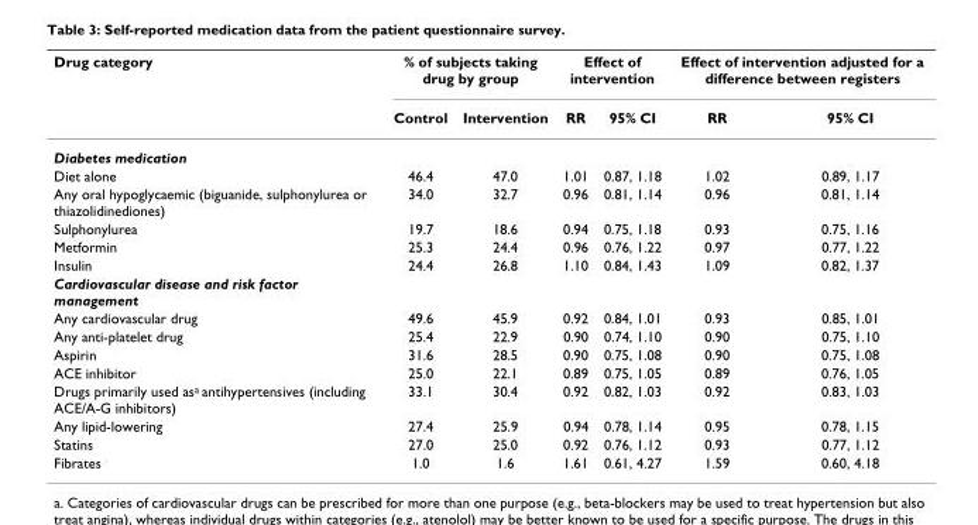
<table><thead><tr><td rowspan="2">Drug category</td><td colspan="2">% of subjects taking drug by group</td><td colspan="2">Effect of intervention</td><td colspan="2">Effect of intervention adjusted for a difference between registers</td></tr><tr><td>Control</td><td>Intervention</td><td>RR</td><td>95% CI</td><td>RR</td><td>95% CI</td></tr></thead><tbody><tr><td colspan="7">Diabetes medication</td></tr><tr><td>Diet alone</td><td>46.4</td><td>47.0</td><td>1.01</td><td>0.87, 1.18</td><td>1.02</td><td>0.89, 1.17</td></tr><tr><td>Any oral hypoglycaemic (biguanide, sulphonylurea or thiazolidinediones)</td><td>34.0</td><td>32.7</td><td>0.96</td><td>0.81, 1.14</td><td>0.96</td><td>0.81, 1.14</td></tr><tr><td>Sulphonylurea</td><td>19.7</td><td>18.6</td><td>0.94</td><td>0.75, 1.18</td><td>0.93</td><td>0.75, 1.16</td></tr><tr><td>Metformin</td><td>25.3</td><td>24.4</td><td>0.96</td><td>0.76, 1.22</td><td>0.97</td><td>0.77, 1.22</td></tr><tr><td>Insulin</td><td>24.4</td><td>26.8</td><td>1.10</td><td>0.84, 1.43</td><td>1.09</td><td>0.82, 1.37</td></tr><tr><td colspan="7">Cardiovascular disease and risk factor management</td></tr><tr><td>Any cardiovascular drug</td><td>49.6</td><td>45.9</td><td>0.92</td><td>0.84, 1.01</td><td>0.93</td><td>0.85, 1.01</td></tr><tr><td>Any anti-platelet drug</td><td>25.4</td><td>22.9</td><td>0.90</td><td>0.74, 1.10</td><td>0.90</td><td>0.75, 1.10</td></tr><tr><td>Aspirin</td><td>31.6</td><td>28.5</td><td>0.90</td><td>0.75, 1.08</td><td>0.90</td><td>0.75, 1.08</td></tr><tr><td>ACE inhibitor</td><td>25.0</td><td>22.1</td><td>0.89</td><td>0.75, 1.05</td><td>0.89</td><td>0.76, 1.05</td></tr><tr><td>Drugs primarily used as<sup>a</sup> antihypertensives (including ACE/A-G inhibitors)</td><td>33.1</td><td>30.4</td><td>0.92</td><td>0.82, 1.03</td><td>0.92</td><td>0.83, 1.03</td></tr><tr><td>Any lipid-lowering</td><td>27.4</td><td>25.9</td><td>0.94</td><td>0.78, 1.14</td><td>0.95</td><td>0.78, 1.15</td></tr><tr><td>Statins</td><td>27.0</td><td>25.0</td><td>0.92</td><td>0.76, 1.12</td><td>0.93</td><td>0.77, 1.12</td></tr><tr><td>Fibrates</td><td>1.0</td><td>1.6</td><td>1.61</td><td>0.61, 4.27</td><td>1.59</td><td>0.60, 4.18</td></tr></tbody></table>